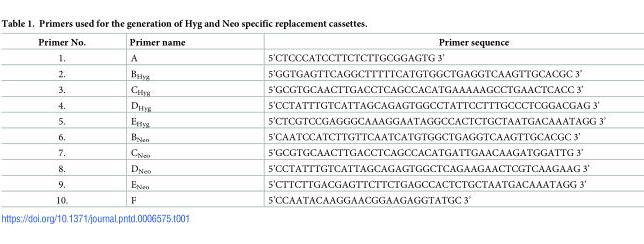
<table><thead><tr><td>Primer No.</td><td>Primer name</td><td>Primer sequence</td></tr></thead><tbody><tr><td>1.</td><td>A</td><td>5’CTCCCATCCTTCTCTTGCGGAGTG 3’</td></tr><tr><td>2.</td><td>B<sub>Hyg</sub></td><td>5’GGTGAGTTCAGGCTTTTTCATGTGGCTGAGGTCAAGTTGCACGC 3’</td></tr><tr><td>3.</td><td>C<sub>Hyg</sub></td><td>5’GCGTGCAACTTGACCTCAGCCACATGAAAAAGCCTGAACTCACC 3’</td></tr><tr><td>4.</td><td>D<sub>Hyg</sub></td><td>5’CCTATTTGTCATTAGCAGAGTGGCCTATTCCTTTGCCCTCGGACGAG 3’</td></tr><tr><td>5.</td><td>E<sub>Hyg</sub></td><td>5’CTCGTCCGAGGGCAAAGGAATAGGCCACTCTGCTAATGACAAATAGG 3’</td></tr><tr><td>6.</td><td>B<sub>Neo</sub></td><td>5’CAATCCATCTTGTTCAATCATGTGGCTGAGGTCAAGTTGCACGC 3’</td></tr><tr><td>7.</td><td>C<sub>Neo</sub></td><td>5’GCGTGCAACTTGACCTCAGCCACATGATTGAACAAGATGGATTG 3’</td></tr><tr><td>8.</td><td>D<sub>Neo</sub></td><td>5’CCTATTTGTCATTAGCAGAGTGGCTCAGAAGAACTCGTCAAGAAG 3’</td></tr><tr><td>9.</td><td>E<sub>Neo</sub></td><td>5’CTTCTTGACGAGTTCTTCTGAGCCACTCTGCTAATGACAAATAGG 3’</td></tr><tr><td>10.</td><td>F</td><td>5’CCAATACAAGGAACGGAAGAGGTATGC 3’</td></tr></tbody></table>